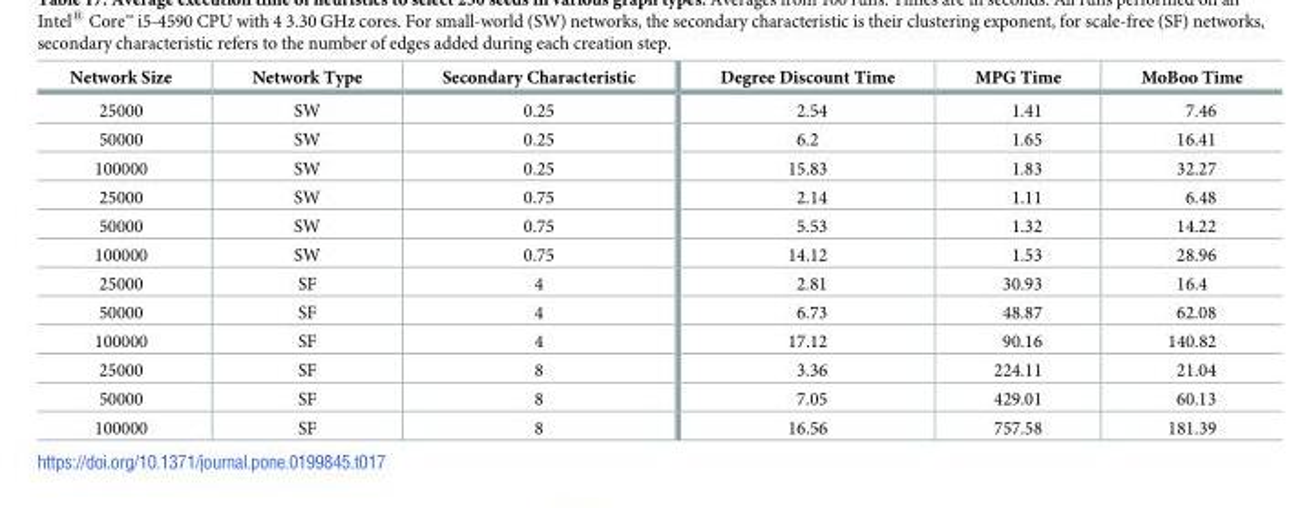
<table><thead><tr><td>Network Size</td><td>Network Type</td><td>Secondary Characteristic</td><td>Degree Discount Time</td><td>MPG Time</td><td>MoBoo Time</td></tr></thead><tbody><tr><td>25000</td><td>SW</td><td>0.25</td><td>2.54</td><td>1.41</td><td>7.46</td></tr><tr><td>50000</td><td>SW</td><td>0.25</td><td>6.2</td><td>1.65</td><td>16.41</td></tr><tr><td>100000</td><td>SW</td><td>0.25</td><td>15.83</td><td>1.83</td><td>32.27</td></tr><tr><td>25000</td><td>SW</td><td>0.75</td><td>2.14</td><td>1.11</td><td>6.48</td></tr><tr><td>50000</td><td>SW</td><td>0.75</td><td>5.53</td><td>1.32</td><td>14.22</td></tr><tr><td>100000</td><td>SW</td><td>0.75</td><td>14.12</td><td>1.53</td><td>28.96</td></tr><tr><td>25000</td><td>SF</td><td>4</td><td>2.81</td><td>30.93</td><td>16.4</td></tr><tr><td>50000</td><td>SF</td><td>4</td><td>6.73</td><td>48.87</td><td>62.08</td></tr><tr><td>100000</td><td>SF</td><td>4</td><td>17.12</td><td>90.16</td><td>140.82</td></tr><tr><td>25000</td><td>SF</td><td>8</td><td>3.36</td><td>224.11</td><td>21.04</td></tr><tr><td>50000</td><td>SF</td><td>8</td><td>7.05</td><td>429.01</td><td>60.13</td></tr><tr><td>100000</td><td>SF</td><td>8</td><td>16.56</td><td>757.58</td><td>181.39</td></tr></tbody></table>